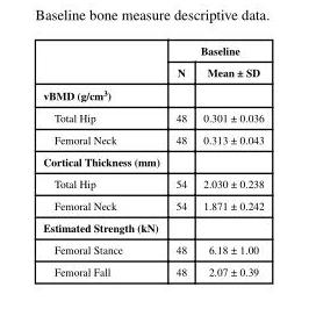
<table><thead><tr><td rowspan="2"></td><td colspan="2">Baseline</td></tr><tr><td>N</td><td>Mean ± SD</td></tr></thead><tbody><tr><td colspan="3">vBMD (g/cm<sup>3</sup>)</td></tr><tr><td>Total Hip</td><td>48</td><td>0.301 ± 0.036</td></tr><tr><td>Femoral Neck</td><td>48</td><td>0.313 ± 0.043</td></tr><tr><td colspan="3">Cortical Thickness (mm)</td></tr><tr><td>Total Hip</td><td>54</td><td>2.030 ± 0.238</td></tr><tr><td>Femoral Neck</td><td>54</td><td>1.871 ± 0.242</td></tr><tr><td colspan="3">Estimated Strength (kN)</td></tr><tr><td>Femoral Stance</td><td>48</td><td>6.18 ± 1.00</td></tr><tr><td>Femoral Fall</td><td>48</td><td>2.07 ± 0.39</td></tr></tbody></table>